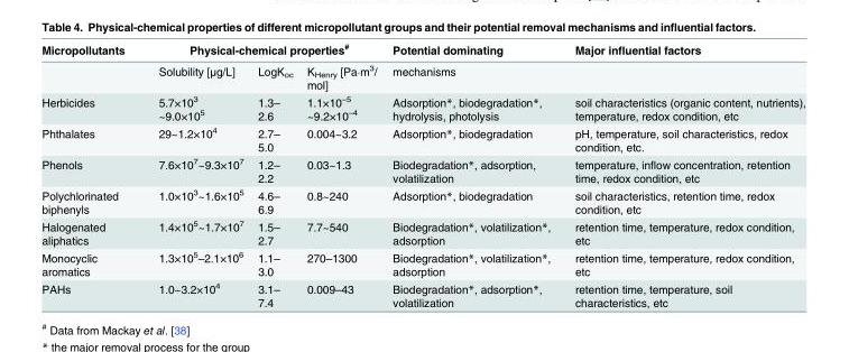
<table><thead><tr><td rowspan="2">Micropollutants</td><td colspan="3">Physical-chemical properties<sup>#</sup></td><td rowspan="2">Potential dominating mechanisms</td><td rowspan="2">Major influential factors</td></tr><tr><td>Solubility [μg/L]</td><td>LogK<sub>oc</sub></td><td>K<sub>Henry</sub> [Pa·m<sup>3</sup>/ mol]</td></tr></thead><tbody><tr><td>Herbicides</td><td>5.7×10<sup>3</sup> ~9.0×10<sup>5</sup></td><td>1.3– 2.6</td><td>1.1×10<sup>–5</sup> ~9.2×10<sup>–4</sup></td><td>Adsorption*, biodegradation*, hydrolysis, photolysis</td><td>soil characteristics (organic content, nutrients), temperature, redox condition, etc</td></tr><tr><td>Phthalates</td><td>29~1.2×10<sup>4</sup></td><td>2.7– 5.0</td><td>0.004~3.2</td><td>Adsorption*, biodegradation</td><td>pH, temperature, soil characteristics, redox condition, etc.</td></tr><tr><td>Phenols</td><td>7.6×10<sup>7</sup>~9.3×10<sup>7</sup></td><td>1.2– 2.2</td><td>0.03~1.3</td><td>Biodegradation*, adsorption, volatilization</td><td>temperature, inflow concentration, retention time, redox condition, etc</td></tr><tr><td>Polychlorinated biphenyls</td><td>1.0×10<sup>3</sup>~1.6×10<sup>5</sup></td><td>4.6– 6.9</td><td>0.8~240</td><td>Adsorption*, biodegradation</td><td>soil characteristics, retention time, redox condition, etc</td></tr><tr><td>Halogenated aliphatics</td><td>1.4×10<sup>5</sup>~1.7×10<sup>7</sup></td><td>1.5– 2.7</td><td>7.7~540</td><td>Biodegradation*, volatilization*, adsorption</td><td>retention time, temperature, redox condition, etc</td></tr><tr><td>Monocyclic aromatics</td><td>1.3×10<sup>5</sup>–2.1×10<sup>6</sup></td><td>1.1– 3.0</td><td>270–1300</td><td>Biodegradation*, volatilization*, adsorption</td><td>retention time, temperature, redox condition, etc</td></tr><tr><td>PAHs</td><td>1.0~3.2×10<sup>4</sup></td><td>3.1– 7.4</td><td>0.009–43</td><td>Biodegradation*, adsorption*, volatilization</td><td>retention time, temperature, soil characteristics, etc</td></tr></tbody></table>